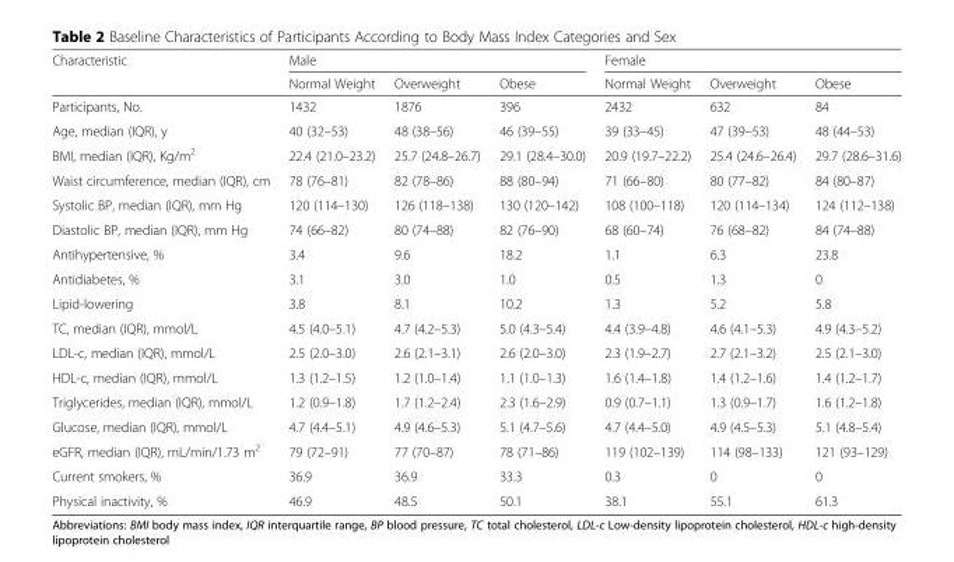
<table><thead><tr><td rowspan="2">Characteristic</td><td colspan="3">Male</td><td colspan="3">Female</td></tr><tr><td>Normal Weight</td><td>Overweight</td><td>Obese</td><td>Normal Weight</td><td>Overweight</td><td>Obese</td></tr></thead><tbody><tr><td>Participants, No.</td><td>1432</td><td>1876</td><td>396</td><td>2432</td><td>632</td><td>84</td></tr><tr><td>Age, median (IQR), y</td><td>40 (32–53)</td><td>48 (38–56)</td><td>46 (39–55)</td><td>39 (33–45)</td><td>47 (39–53)</td><td>48 (44–53)</td></tr><tr><td>BMI, median (IQR), Kg/m<sup>2</sup></td><td>22.4 (21.0–23.2)</td><td>25.7 (24.8–26.7)</td><td>29.1 (28.4–30.0)</td><td>20.9 (19.7–22.2)</td><td>25.4 (24.6–26.4)</td><td>29.7 (28.6–31.6)</td></tr><tr><td>Waist circumference, median (IQR), cm</td><td>78 (76–81)</td><td>82 (78–86)</td><td>88 (80–94)</td><td>71 (66–80)</td><td>80 (77–82)</td><td>84 (80–87)</td></tr><tr><td>Systolic BP, median (IQR), mm Hg</td><td>120 (114–130)</td><td>126 (118–138)</td><td>130 (120–142)</td><td>108 (100–118)</td><td>120 (114–134)</td><td>124 (112–138)</td></tr><tr><td>Diastolic BP, median (IQR), mm Hg</td><td>74 (66–82)</td><td>80 (74–88)</td><td>82 (76–90)</td><td>68 (60–74)</td><td>76 (68–82)</td><td>84 (74–88)</td></tr><tr><td>Antihypertensive, %</td><td>3.4</td><td>9.6</td><td>18.2</td><td>1.1</td><td>6.3</td><td>23.8</td></tr><tr><td>Antidiabetes, %</td><td>3.1</td><td>3.0</td><td>1.0</td><td>0.5</td><td>1.3</td><td>0</td></tr><tr><td>Lipid-lowering</td><td>3.8</td><td>8.1</td><td>10.2</td><td>1.3</td><td>5.2</td><td>5.8</td></tr><tr><td>TC, median (IQR), mmol/L</td><td>4.5 (4.0–5.1)</td><td>4.7 (4.2–5.3)</td><td>5.0 (4.3–5.4)</td><td>4.4 (3.9–4.8)</td><td>4.6 (4.1–5.3)</td><td>4.9 (4.3–5.2)</td></tr><tr><td>LDL-c, median (IQR), mmol/L</td><td>2.5 (2.0–3.0)</td><td>2.6 (2.1–3.1)</td><td>2.6 (2.0–3.0)</td><td>2.3 (1.9–2.7)</td><td>2.7 (2.1–3.2)</td><td>2.5 (2.1–3.0)</td></tr><tr><td>HDL-c, median (IQR), mmol/L</td><td>1.3 (1.2–1.5)</td><td>1.2 (1.0–1.4)</td><td>1.1 (1.0–1.3)</td><td>1.6 (1.4–1.8)</td><td>1.4 (1.2–1.6)</td><td>1.4 (1.2–1.7)</td></tr><tr><td>Triglycerides, median (IQR), mmol/L</td><td>1.2 (0.9–1.8)</td><td>1.7 (1.2–2.4)</td><td>2.3 (1.6–2.9)</td><td>0.9 (0.7–1.1)</td><td>1.3 (0.9–1.7)</td><td>1.6 (1.2–1.8)</td></tr><tr><td>Glucose, median (IQR), mmol/L</td><td>4.7 (4.4–5.1)</td><td>4.9 (4.6–5.3)</td><td>5.1 (4.7–5.6)</td><td>4.7 (4.4–5.0)</td><td>4.9 (4.5–5.3)</td><td>5.1 (4.8–5.4)</td></tr><tr><td>eGFR, median (IQR), mL/min/1.73 m<sup>2</sup></td><td>79 (72–91)</td><td>77 (70–87)</td><td>78 (71–86)</td><td>119 (102–139)</td><td>114 (98–133)</td><td>121 (93–129)</td></tr><tr><td>Current smokers, %</td><td>36.9</td><td>36.9</td><td>33.3</td><td>0.3</td><td>0</td><td>0</td></tr><tr><td>Physical inactivity, %</td><td>46.9</td><td>48.5</td><td>50.1</td><td>38.1</td><td>55.1</td><td>61.3</td></tr></tbody></table>